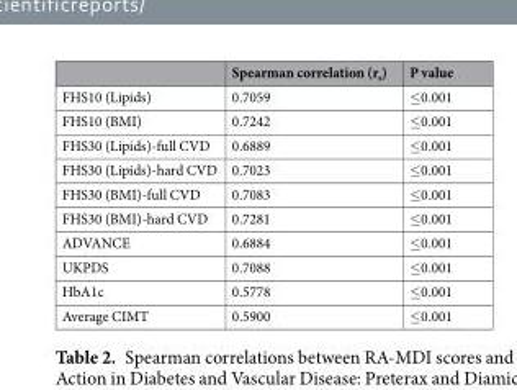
<table><thead><tr><td></td><td>Spearman correlation (r<sub>s</sub>)</td><td>P value</td></tr></thead><tbody><tr><td>FHS10 (Lipids)</td><td>0.7059</td><td>≤0.001</td></tr><tr><td>FHS10 (BMI)</td><td>0.7242</td><td>≤0.001</td></tr><tr><td>FHS30 (Lipids)-full CVD</td><td>0.6889</td><td>≤0.001</td></tr><tr><td>FHS30 (Lipids)-hard CVD</td><td>0.7023</td><td>≤0.001</td></tr><tr><td>FHS30 (BMI)-full CVD</td><td>0.7083</td><td>≤0.001</td></tr><tr><td>FHS30 (BMI)-hard CVD</td><td>0.7281</td><td>≤0.001</td></tr><tr><td>ADVANCE</td><td>0.6884</td><td>≤0.001</td></tr><tr><td>UKPDS</td><td>0.7088</td><td>≤0.001</td></tr><tr><td>HbA1c</td><td>0.5778</td><td>≤0.001</td></tr><tr><td>Average CIMT</td><td>0.5900</td><td>≤0.001</td></tr></tbody></table>